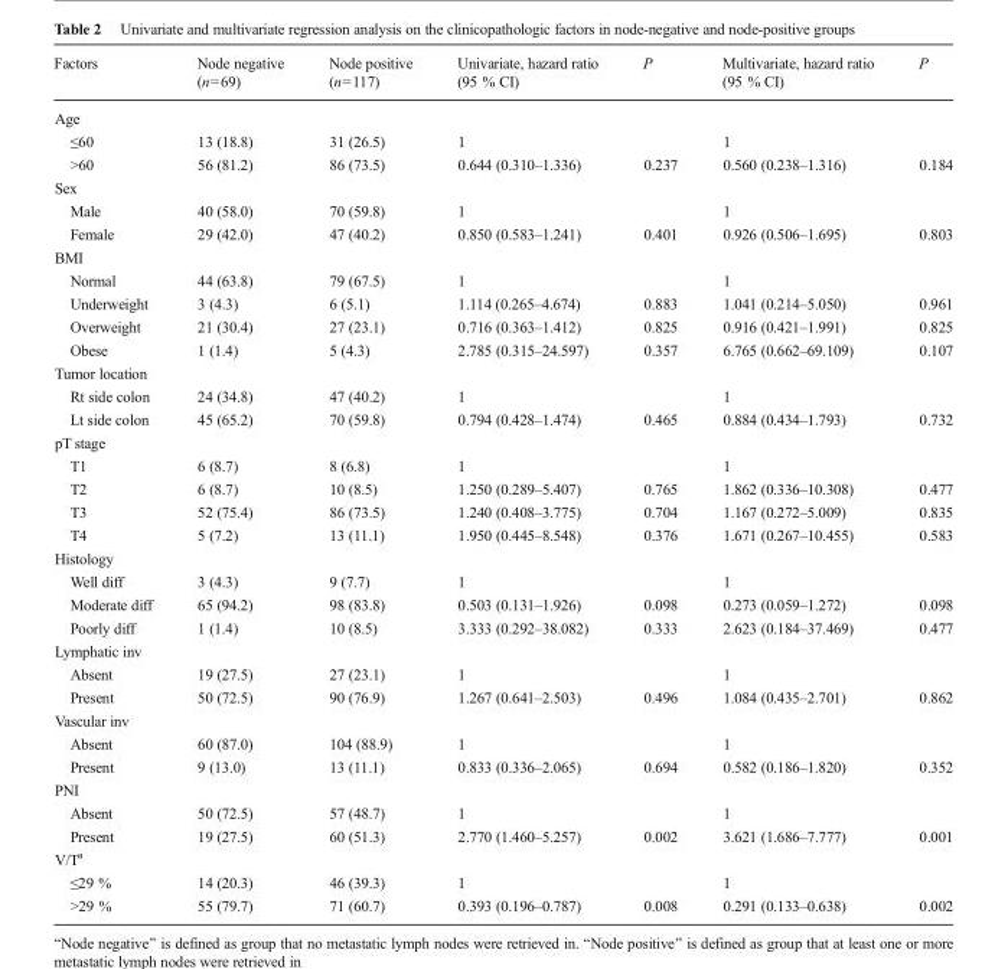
<table><thead><tr><td>Factors</td><td>Node negative (n=69)</td><td>Node positive (n=117)</td><td>Univariate, hazard ratio (95 % CI)</td><td>P</td><td>Multivariate, hazard ratio (95 % CI)</td><td>P</td></tr></thead><tbody><tr><td colspan="7">Age</td></tr><tr><td>≤60</td><td>13 (18.8)</td><td>31 (26.5)</td><td>1</td><td></td><td>1</td><td></td></tr><tr><td>&gt;60</td><td>56 (81.2)</td><td>86 (73.5)</td><td>0.644 (0.310–1.336)</td><td>0.237</td><td>0.560 (0.238–1.316)</td><td>0.184</td></tr><tr><td colspan="7">Sex</td></tr><tr><td>Male</td><td>40 (58.0)</td><td>70 (59.8)</td><td>1</td><td></td><td>1</td><td></td></tr><tr><td>Female</td><td>29 (42.0)</td><td>47 (40.2)</td><td>0.850 (0.583–1.241)</td><td>0.401</td><td>0.926 (0.506–1.695)</td><td>0.803</td></tr><tr><td colspan="7">BMI</td></tr><tr><td>Normal</td><td>44 (63.8)</td><td>79 (67.5)</td><td>1</td><td></td><td>1</td><td></td></tr><tr><td>Underweight</td><td>3 (4.3)</td><td>6 (5.1)</td><td>1.114 (0.265–4.674)</td><td>0.883</td><td>1.041 (0.214–5.050)</td><td>0.961</td></tr><tr><td>Overweight</td><td>21 (30.4)</td><td>27 (23.1)</td><td>0.716 (0.363–1.412)</td><td>0.825</td><td>0.916 (0.421–1.991)</td><td>0.825</td></tr><tr><td>Obese</td><td>1 (1.4)</td><td>5 (4.3)</td><td>2.785 (0.315–24.597)</td><td>0.357</td><td>6.765 (0.662–69.109)</td><td>0.107</td></tr><tr><td colspan="7">Tumor location</td></tr><tr><td>Rt side colon</td><td>24 (34.8)</td><td>47 (40.2)</td><td>1</td><td></td><td>1</td><td></td></tr><tr><td>Lt side colon</td><td>45 (65.2)</td><td>70 (59.8)</td><td>0.794 (0.428–1.474)</td><td>0.465</td><td>0.884 (0.434–1.793)</td><td>0.732</td></tr><tr><td colspan="7">pT stage</td></tr><tr><td>T1</td><td>6 (8.7)</td><td>8 (6.8)</td><td>1</td><td></td><td>1</td><td></td></tr><tr><td>T2</td><td>6 (8.7)</td><td>10 (8.5)</td><td>1.250 (0.289–5.407)</td><td>0.765</td><td>1.862 (0.336–10.308)</td><td>0.477</td></tr><tr><td>T3</td><td>52 (75.4)</td><td>86 (73.5)</td><td>1.240 (0.408–3.775)</td><td>0.704</td><td>1.167 (0.272–5.009)</td><td>0.835</td></tr><tr><td>T4</td><td>5 (7.2)</td><td>13 (11.1)</td><td>1.950 (0.445–8.548)</td><td>0.376</td><td>1.671 (0.267–10.455)</td><td>0.583</td></tr><tr><td colspan="7">Histology</td></tr><tr><td>Well diff</td><td>3 (4.3)</td><td>9 (7.7)</td><td>1</td><td></td><td>1</td><td></td></tr><tr><td>Moderate diff</td><td>65 (94.2)</td><td>98 (83.8)</td><td>0.503 (0.131–1.926)</td><td>0.098</td><td>0.273 (0.059–1.272)</td><td>0.098</td></tr><tr><td>Poorly diff</td><td>1 (1.4)</td><td>10 (8.5)</td><td>3.333 (0.292–38.082)</td><td>0.333</td><td>2.623 (0.184–37.469)</td><td>0.477</td></tr><tr><td colspan="7">Lymphatic inv</td></tr><tr><td>Absent</td><td>19 (27.5)</td><td>27 (23.1)</td><td>1</td><td></td><td>1</td><td></td></tr><tr><td>Present</td><td>50 (72.5)</td><td>90 (76.9)</td><td>1.267 (0.641–2.503)</td><td>0.496</td><td>1.084 (0.435–2.701)</td><td>0.862</td></tr><tr><td colspan="7">Vascular inv</td></tr><tr><td>Absent</td><td>60 (87.0)</td><td>104 (88.9)</td><td>1</td><td></td><td>1</td><td></td></tr><tr><td>Present</td><td>9 (13.0)</td><td>13 (11.1)</td><td>0.833 (0.336–2.065)</td><td>0.694</td><td>0.582 (0.186–1.820)</td><td>0.352</td></tr><tr><td colspan="7">PNI</td></tr><tr><td>Absent</td><td>50 (72.5)</td><td>57 (48.7)</td><td>1</td><td></td><td>1</td><td></td></tr><tr><td>Present</td><td>19 (27.5)</td><td>60 (51.3)</td><td>2.770 (1.460–5.257)</td><td>0.002</td><td>3.621 (1.686–7.777)</td><td>0.001</td></tr><tr><td colspan="7">V/T<sup>a</sup></td></tr><tr><td>≤29 %</td><td>14 (20.3)</td><td>46 (39.3)</td><td>1</td><td></td><td>1</td><td></td></tr><tr><td>&gt;29 %</td><td>55 (79.7)</td><td>71 (60.7)</td><td>0.393 (0.196–0.787)</td><td>0.008</td><td>0.291 (0.133–0.638)</td><td>0.002</td></tr></tbody></table>